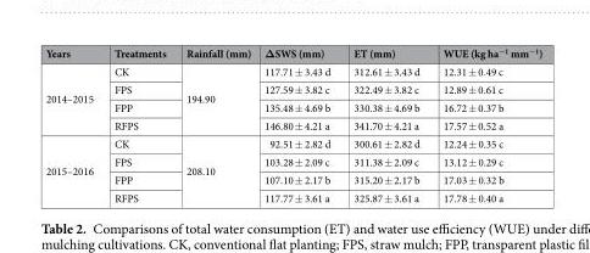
<table><thead><tr><td>Years</td><td>Treatments</td><td>Rainfall (mm)</td><td>ΔSWS (mm)</td><td>ET (mm)</td><td>WUE (kg ha<sup>−1</sup> mm<sup>−1</sup>)</td></tr></thead><tbody><tr><td rowspan="4">2014–2015</td><td>CK</td><td rowspan="4">194.90</td><td>117.71 ± 3.43 d</td><td>312.61 ± 3.43 d</td><td>12.31 ± 0.49 c</td></tr><tr><td>FPS</td><td>127.59 ± 3.82 c</td><td>322.49 ± 3.82 c</td><td>12.89 ± 0.61 c</td></tr><tr><td>FPP</td><td>135.48 ± 4.69 b</td><td>330.38 ± 4.69 b</td><td>16.72 ± 0.37 b</td></tr><tr><td>RFPS</td><td>146.80 ± 4.21 a</td><td>341.70 ± 4.21 a</td><td>17.57 ± 0.52 a</td></tr><tr><td rowspan="4">2015–2016</td><td>CK</td><td rowspan="4">208.10</td><td>92.51 ± 2.82 d</td><td>300.61 ± 2.82 d</td><td>12.24 ± 0.35 c</td></tr><tr><td>FPS</td><td>103.28 ± 2.09 c</td><td>311.38 ± 2.09 c</td><td>13.12 ± 0.29 c</td></tr><tr><td>FPP</td><td>107.10 ± 2.17 b</td><td>315.20 ± 2.17 b</td><td>17.03 ± 0.32 b</td></tr><tr><td>RFPS</td><td>117.77 ± 3.61 a</td><td>325.87 ± 3.61 a</td><td>17.78 ± 0.40 a</td></tr></tbody></table>